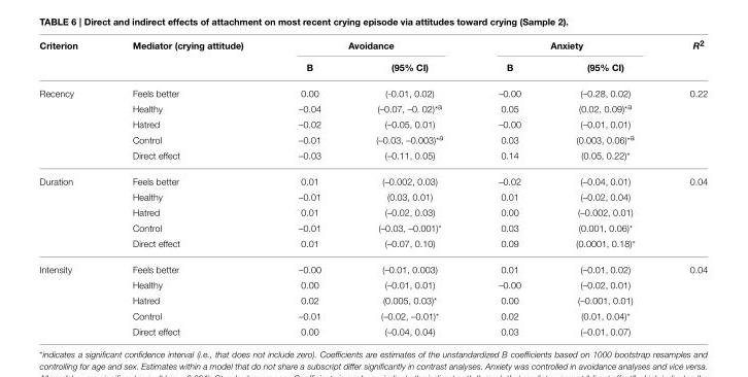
<table><thead><tr><td rowspan="2">Criterion</td><td rowspan="2">Mediator (crying attitude)</td><td colspan="2">Avoidance</td><td colspan="2">Anxiety</td><td rowspan="2">R<sup>2</sup></td></tr><tr><td>B</td><td>(95% CI)</td><td>B</td><td>(95% CI)</td></tr></thead><tbody><tr><td rowspan="5">Recency</td><td>Feels better</td><td>0.00</td><td>(-0.01, 0.02)</td><td>–0.00</td><td>(–0.28, 0.02)</td><td>0.22</td></tr><tr><td>Healthy</td><td>–0.04</td><td>(–0.07, –0. 02)*a</td><td>0.05</td><td>(0.02, 0.09)*a</td><td></td></tr><tr><td>Hatred</td><td>–0.02</td><td>(–0.05, 0.01)</td><td>–0.00</td><td>(–0.01, 0.01)</td><td></td></tr><tr><td>Control</td><td>–0.01</td><td>(–0.03, –0.003)*a</td><td>0.03</td><td>(0.003, 0.06)*a</td><td></td></tr><tr><td>Direct effect</td><td>–0.03</td><td>(–0.11, 0.05)</td><td>0.14</td><td>(0.05, 0.22)*</td><td></td></tr><tr><td rowspan="5">Duration</td><td>Feels better</td><td>0.01</td><td>(–0.002, 0.03)</td><td>–0.02</td><td>(–0.04, 0.01)</td><td>0.04</td></tr><tr><td>Healthy</td><td>–0.01</td><td>(0.03, 0.01)</td><td>0.01</td><td>(–0.02, 0.04)</td><td></td></tr><tr><td>Hatred</td><td>0.01</td><td>(–0.02, 0.03)</td><td>0.00</td><td>(–0.002, 0.01)</td><td></td></tr><tr><td>Control</td><td>–0.01</td><td>(–0.03, –0.001)*</td><td>0.03</td><td>(0.001, 0.06)*</td><td></td></tr><tr><td>Direct effect</td><td>0.01</td><td>(–0.07, 0.10)</td><td>0.09</td><td>(0.0001, 0.18)*</td><td></td></tr><tr><td rowspan="5">Intensity</td><td>Feels better</td><td>–0.00</td><td>(–0.01, 0.003)</td><td>0.01</td><td>(–0.01, 0.02)</td><td>0.04</td></tr><tr><td>Healthy</td><td>0.00</td><td>(–0.01, 0.01)</td><td>–0.00</td><td>(–0.02, 0.01)</td><td></td></tr><tr><td>Hatred</td><td>0.02</td><td>(0.005, 0.03)*</td><td>0.00</td><td>(–0.001, 0.01)</td><td></td></tr><tr><td>Control</td><td>–0.01</td><td>(–0.02, –0.01)*</td><td>0.02</td><td>(0.01, 0.04)*</td><td></td></tr><tr><td>Direct effect</td><td>0.00</td><td>(–0.04, 0.04)</td><td>0.03</td><td>(–0.01, 0.07)</td><td></td></tr></tbody></table>